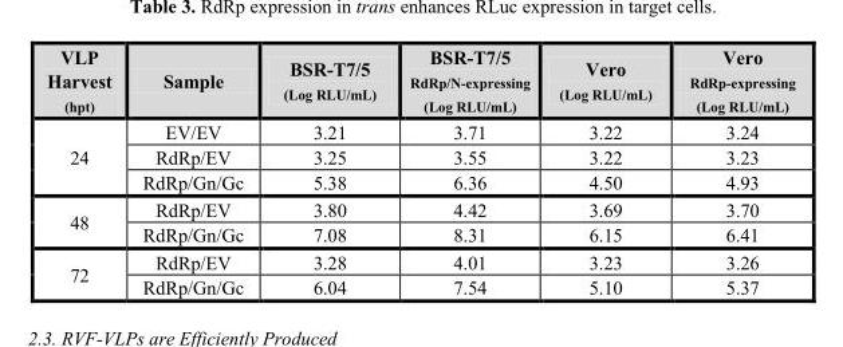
<table><thead><tr><td>VLP Harvest (hpt)</td><td>Sample</td><td>BSR-T7/5 (Log RLU/mL)</td><td>BSR-T7/5 RdRp/N-expressing (Log RLU/mL)</td><td>Vero (Log RLU/mL)</td><td>Vero RdRp-expressing (Log RLU/mL)</td></tr></thead><tbody><tr><td rowspan="3">24</td><td>EV/EV</td><td>3.21</td><td>3.71</td><td>3.22</td><td>3.24</td></tr><tr><td>RdRp/EV</td><td>3.25</td><td>3.55</td><td>3.22</td><td>3.23</td></tr><tr><td>RdRp/Gn/Gc</td><td>5.38</td><td>6.36</td><td>4.50</td><td>4.93</td></tr><tr><td rowspan="2">48</td><td>RdRp/EV</td><td>3.80</td><td>4.42</td><td>3.69</td><td>3.70</td></tr><tr><td>RdRp/Gn/Gc</td><td>7.08</td><td>8.31</td><td>6.15</td><td>6.41</td></tr><tr><td rowspan="2">72</td><td>RdRp/EV</td><td>3.28</td><td>4.01</td><td>3.23</td><td>3.26</td></tr><tr><td>RdRp/Gn/Gc</td><td>6.04</td><td>7.54</td><td>5.10</td><td>5.37</td></tr></tbody></table>